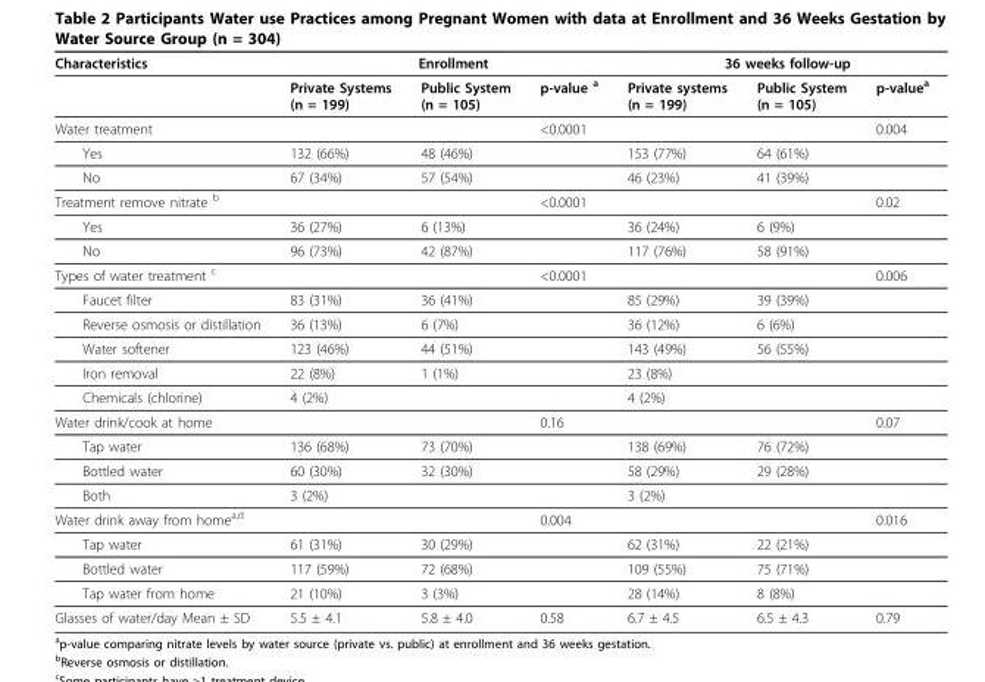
<table><thead><tr><td rowspan="2">Characteristics</td><td colspan="3">Enrollment</td><td colspan="3">36 weeks follow-up</td></tr><tr><td>Private Systems (n = 199)</td><td>Public System (n = 105)</td><td>p-value <sup>a</sup></td><td>Private systems (n = 199)</td><td>Public System (n = 105)</td><td>p-value<sup>a</sup></td></tr></thead><tbody><tr><td>Water treatment</td><td></td><td></td><td>&lt;0.0001</td><td></td><td></td><td>0.004</td></tr><tr><td>Yes</td><td>132 (66%)</td><td>48 (46%)</td><td></td><td>153 (77%)</td><td>64 (61%)</td><td></td></tr><tr><td>No</td><td>67 (34%)</td><td>57 (54%)</td><td></td><td>46 (23%)</td><td>41 (39%)</td><td></td></tr><tr><td>Treatment remove nitrate <sup>b</sup></td><td></td><td></td><td>&lt;0.0001</td><td></td><td></td><td>0.02</td></tr><tr><td>Yes</td><td>36 (27%)</td><td>6 (13%)</td><td></td><td>36 (24%)</td><td>6 (9%)</td><td></td></tr><tr><td>No</td><td>96 (73%)</td><td>42 (87%)</td><td></td><td>117 (76%)</td><td>58 (91%)</td><td></td></tr><tr><td>Types of water treatment <sup>c</sup></td><td></td><td></td><td>&lt;0.0001</td><td></td><td></td><td>0.006</td></tr><tr><td>Faucet filter</td><td>83 (31%)</td><td>36 (41%)</td><td></td><td>85 (29%)</td><td>39 (39%)</td><td></td></tr><tr><td>Reverse osmosis or distillation</td><td>36 (13%)</td><td>6 (7%)</td><td></td><td>36 (12%)</td><td>6 (6%)</td><td></td></tr><tr><td>Water softener</td><td>123 (46%)</td><td>44 (51%)</td><td></td><td>143 (49%)</td><td>56 (55%)</td><td></td></tr><tr><td>Iron removal</td><td>22 (8%)</td><td>1 (1%)</td><td></td><td>23 (8%)</td><td></td><td></td></tr><tr><td>Chemicals (chlorine)</td><td>4 (2%)</td><td></td><td></td><td>4 (2%)</td><td></td><td></td></tr><tr><td>Water drink/cook at home</td><td></td><td></td><td>0.16</td><td></td><td></td><td>0.07</td></tr><tr><td>Tap water</td><td>136 (68%)</td><td>73 (70%)</td><td></td><td>138 (69%)</td><td>76 (72%)</td><td></td></tr><tr><td>Bottled water</td><td>60 (30%)</td><td>32 (30%)</td><td></td><td>58 (29%)</td><td>29 (28%)</td><td></td></tr><tr><td>Both</td><td>3 (2%)</td><td></td><td></td><td>3 (2%)</td><td></td><td></td></tr><tr><td>Water drink away from home<sup>a,d</sup></td><td></td><td></td><td>0.004</td><td></td><td></td><td>0.016</td></tr><tr><td>Tap water</td><td>61 (31%)</td><td>30 (29%)</td><td></td><td>62 (31%)</td><td>22 (21%)</td><td></td></tr><tr><td>Bottled water</td><td>117 (59%)</td><td>72 (68%)</td><td></td><td>109 (55%)</td><td>75 (71%)</td><td></td></tr><tr><td>Tap water from home</td><td>21 (10%)</td><td>3 (3%)</td><td></td><td>28 (14%)</td><td>8 (8%)</td><td></td></tr><tr><td>Glasses of water/day Mean ± SD</td><td>5.5 ± 4.1</td><td>5.8 ± 4.0</td><td>0.58</td><td>6.7 ± 4.5</td><td>6.5 ± 4.3</td><td>0.79</td></tr></tbody></table>